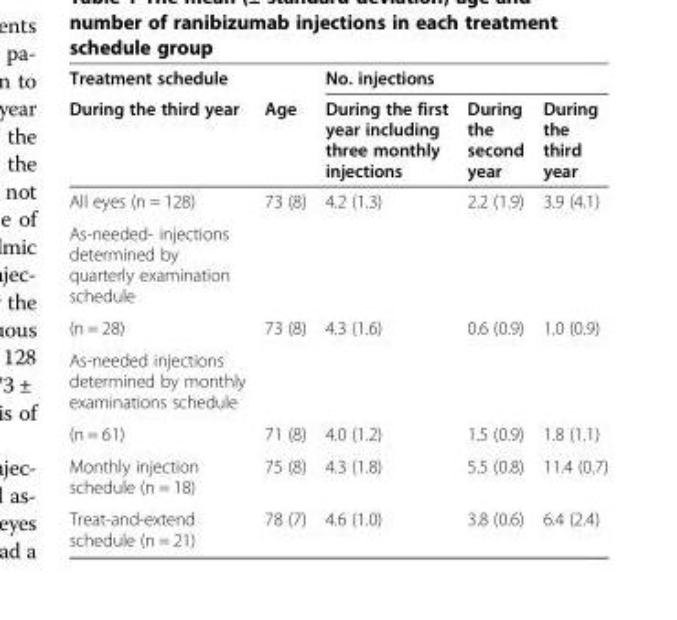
<table><thead><tr><td rowspan="2">Treatment schedule During the third year</td><td rowspan="2">Age</td><td colspan="3">No. injections</td></tr><tr><td>During the first year including three monthly injections</td><td>During the second year</td><td>During the third year</td></tr></thead><tbody><tr><td>All eyes (n = 128)</td><td>73 (8)</td><td>4.2 (1.3)</td><td>2.2 (1.9)</td><td>3.9 (4.1)</td></tr><tr><td colspan="5">As-needed- injections determined by quarterly examination schedule</td></tr><tr><td>(n = 28)</td><td>73 (8)</td><td>4.3 (1.6)</td><td>0.6 (0.9)</td><td>1.0 (0.9)</td></tr><tr><td colspan="5">As-needed injections determined by monthly examinations schedule</td></tr><tr><td>(n = 61)</td><td>71 (8)</td><td>4.0 (1.2)</td><td>1.5 (0.9)</td><td>1.8 (1.1)</td></tr><tr><td>Monthly injection schedule (n = 18)</td><td>75 (8)</td><td>4.3 (1.8)</td><td>5.5 (0.8)</td><td>11.4 (0.7)</td></tr><tr><td>Treat-and-extend schedule (n = 21)</td><td>78 (7)</td><td>4.6 (1.0)</td><td>3.8 (0.6)</td><td>6.4 (2.4)</td></tr></tbody></table>